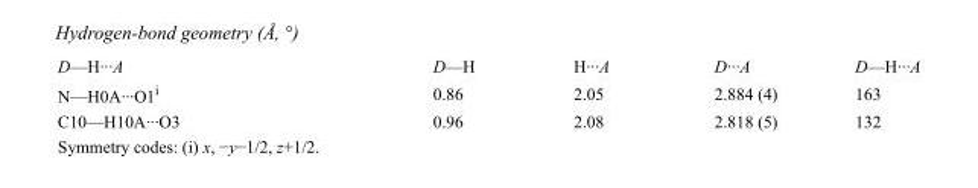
<table><tbody><tr><td>D—H···A</td><td>D—H</td><td>H···A</td><td>D···A</td><td>D—H···A</td></tr><tr><td>N—H0A···O1<sup>i</sup></td><td>0.86</td><td>2.05</td><td>2.884 (4)</td><td>163</td></tr><tr><td>C10—H10A···O3</td><td>0.96</td><td>2.08</td><td>2.818 (5)</td><td>132</td></tr></tbody></table>